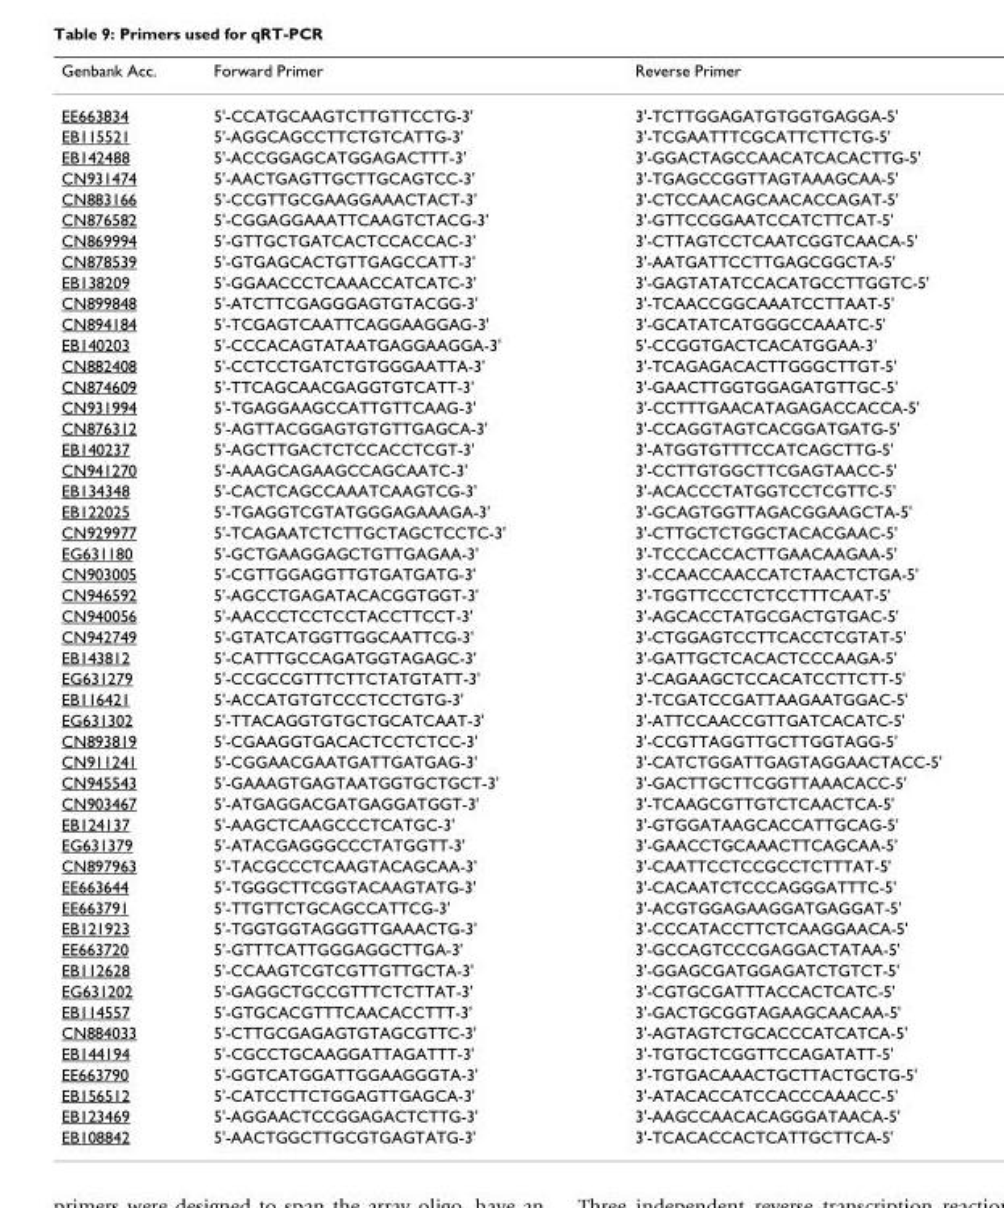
<table><thead><tr><td>Genbank Acc.</td><td>Forward Primer</td><td>Reverse Primer</td></tr></thead><tbody><tr><td>EE663834</td><td>5&#x27;-CCATGCAAGTCTTGTTCCTG-3&#x27;</td><td>3&#x27;-TCTTGGAGATGTGGTGAGGA-5&#x27;</td></tr><tr><td>EB115521</td><td>5&#x27;-AGGCAGCCTTCTGTCATTG-3&#x27;</td><td>3&#x27;-TCGAATTTCGCATTCTTCTG-5&#x27;</td></tr><tr><td>EB142488</td><td>5&#x27;-ACCGGAGCATGGAGACTTT-3&#x27;</td><td>3&#x27;-GGACTAGCCAACATCACACTTG-5&#x27;</td></tr><tr><td>CN931474</td><td>5&#x27;-AACTGAGTTGCTTGCAGTCC-3&#x27;</td><td>3&#x27;-TGAGCCGGTTAGTAAAGCAA-5&#x27;</td></tr><tr><td>CN883166</td><td>5&#x27;-CCGTTGCGAAGGAAACTACT-3&#x27;</td><td>3&#x27;-CTCCAACAGCAACACCAGAT-5&#x27;</td></tr><tr><td>CN876582</td><td>5&#x27;-CGGAGGAAATTCAAGTCTACG-3&#x27;</td><td>3&#x27;-GTTCCGGAATCCATCTTCAT-5&#x27;</td></tr><tr><td>CN869994</td><td>5&#x27;-GTTGCTGATCACTCCACCAC-3&#x27;</td><td>3&#x27;-CTTAGTCCTCAATCGGTCAACA-5&#x27;</td></tr><tr><td>CN878539</td><td>5&#x27;-GTGAGCACTGTTGAGCCATT-3&#x27;</td><td>3&#x27;-AATGATTCCTTGAGCGGCTA-5&#x27;</td></tr><tr><td>EB138209</td><td>5&#x27;-GGAACCCTCAAACCATCATC-3&#x27;</td><td>3&#x27;-GAGTATATCCACATGCCTTGGTC-5&#x27;</td></tr><tr><td>CN899848</td><td>5&#x27;-ATCTTCGAGGGAGTGTACGG-3&#x27;</td><td>3&#x27;-TCAACCGGCAAATCCTTAAT-5&#x27;</td></tr><tr><td>CN894184</td><td>5&#x27;-TCGAGTCAATTCAGGAAGGAG-3&#x27;</td><td>3&#x27;-GCATATCATGGGCCAAATC-5&#x27;</td></tr><tr><td>EB140203</td><td>5&#x27;-CCCACAGTATAATGAGGAAGGA-3&#x27;</td><td>5&#x27;-CCGGTGACTCACATGGAA-3&#x27;</td></tr><tr><td>CN882408</td><td>5&#x27;-CCTCCTGATCTGTGGGAATTA-3&#x27;</td><td>3&#x27;-TCAGAGACACTTGGGCTTGT-5&#x27;</td></tr><tr><td>CN874609</td><td>5&#x27;-TTCAGCAACGAGGTGTCATT-3&#x27;</td><td>3&#x27;-GAACTTGGTGGAGATGTTGC-5&#x27;</td></tr><tr><td>CN931994</td><td>5&#x27;-TGAGGAAGCCATTGTTCAAG-3&#x27;</td><td>3&#x27;-CCTTTGAACATAGAGACCACCA-5&#x27;</td></tr><tr><td>CN876312</td><td>5&#x27;-AGTTACGGAGTGTGTTGAGCA-3&#x27;</td><td>3&#x27;-CCAGGTAGTCACGGATGATG-5&#x27;</td></tr><tr><td>EB140237</td><td>5&#x27;-AGCTTGACTCTCCACCTCGT-3&#x27;</td><td>3&#x27;-ATGGTGTTTCCATCAGCTTG-5&#x27;</td></tr><tr><td>CN941270</td><td>5&#x27;-AAAGCAGAAGCCAGCAATC-3&#x27;</td><td>3&#x27;-CCTTGTGGCTTCGAGTAACC-5&#x27;</td></tr><tr><td>EB134348</td><td>5&#x27;-CACTCAGCCAAATCAAGTCG-3&#x27;</td><td>3&#x27;-ACACCCTATGGTCCTCGTTC-5&#x27;</td></tr><tr><td>EB122025</td><td>5&#x27;-TGAGGTCGTATGGGAGAAAGA-3&#x27;</td><td>3&#x27;-GCAGTGGTTAGACGGAAGCTA-5&#x27;</td></tr><tr><td>CN929977</td><td>5&#x27;-TCAGAATCTCTTGCTAGCTCCTC-3&#x27;</td><td>3&#x27;-CTTGCTCTGGCTACACGAAC-5&#x27;</td></tr><tr><td>EG631180</td><td>5&#x27;-GCTGAAGGAGCTGTTGAGAA-3&#x27;</td><td>3&#x27;-TCCCACCACTTGAACAAGAA-5&#x27;</td></tr><tr><td>CN903005</td><td>5&#x27;-CGTTGGAGGTTGTGATGATG-3&#x27;</td><td>3&#x27;-CCAACCAACCATCTAACTCTGA-5&#x27;</td></tr><tr><td>CN946592</td><td>5&#x27;-AGCCTGAGATACACGGTGGT-3&#x27;</td><td>3&#x27;-TGGTTCCCTCTCCTTTCAAT-5&#x27;</td></tr><tr><td>CN940056</td><td>5&#x27;-AACCCTCCTCCTACCTTCCT-3&#x27;</td><td>3&#x27;-AGCACCTATGCGACTGTGAC-5&#x27;</td></tr><tr><td>CN942749</td><td>5&#x27;-GTATCATGGTTGGCAATTCG-3&#x27;</td><td>3&#x27;-CTGGAGTCCTTCACCTCGTAT-5&#x27;</td></tr><tr><td>EB143812</td><td>5&#x27;-CATTTGCCAGATGGTAGAGC-3&#x27;</td><td>3&#x27;-GATTGCTCACACTCCCAAGA-5&#x27;</td></tr><tr><td>EG631279</td><td>5&#x27;-CCGCCGTTTCTTCTATGTATT-3&#x27;</td><td>3&#x27;-CAGAAGCTCCACATCCTTCTT-5&#x27;</td></tr><tr><td>EB116421</td><td>5&#x27;-ACCATGTGTCCCTCCTGTG-3&#x27;</td><td>3&#x27;-TCGATCCGATTAAGAATGGAC-5&#x27;</td></tr><tr><td>EG631302</td><td>5&#x27;-TTACAGGTGTGCTGCATCAAT-3&#x27;</td><td>3&#x27;-ATTCCAACCGTTGATCACATC-5&#x27;</td></tr><tr><td>CN893819</td><td>5&#x27;-CGAAGGTGACACTCCTCTCC-3&#x27;</td><td>3&#x27;-CCGTTAGGTTGCTTGGTAGG-5&#x27;</td></tr><tr><td>CN911241</td><td>5&#x27;-CGGAACGAATGATTGATGAG-3&#x27;</td><td>3&#x27;-CATCTGGATTGAGTAGGAACTACC-5&#x27;</td></tr><tr><td>CN945543</td><td>5&#x27;-GAAAGTGAGTAATGGTGCTGCT-3&#x27;</td><td>3&#x27;-GACTTGCTTCGGTTAAACACC-5&#x27;</td></tr><tr><td>CN903467</td><td>5&#x27;-ATGAGGACGATGAGGATGGT-3&#x27;</td><td>3&#x27;-TCAAGCGTTGTCTCAACTCA-5&#x27;</td></tr><tr><td>EB124137</td><td>5&#x27;-AAGCTCAAGCCCTCATGC-3&#x27;</td><td>3&#x27;-GTGGATAAGCACCATTGCAG-5&#x27;</td></tr><tr><td>EG631379</td><td>5&#x27;-ATACGAGGGCCCTATGGTT-3&#x27;</td><td>3&#x27;-GAACCTGCAAACTTCAGCAA-5&#x27;</td></tr><tr><td>CN897963</td><td>5&#x27;-TACGCCCTCAAGTACAGCAA-3&#x27;</td><td>3&#x27;-CAATTCCTCCGCCTCTTTAT-5&#x27;</td></tr><tr><td>EE663644</td><td>5&#x27;-TGGGCTTCGGTACAAGTATG-3&#x27;</td><td>3&#x27;-CACAATCTCCCAGGGATTTC-5&#x27;</td></tr><tr><td>EE663791</td><td>5&#x27;-TTGTTCTGCAGCCATTCG-3&#x27;</td><td>3&#x27;-ACGTGGAGAAGGATGAGGAT-5&#x27;</td></tr><tr><td>EB121923</td><td>5&#x27;-TGGTGGTAGGGTTGAAACTG-3&#x27;</td><td>3&#x27;-CCCATACCTTCTCAAGGAACA-5&#x27;</td></tr><tr><td>EE663720</td><td>5&#x27;-GTTTCATTGGGAGGCTTGA-3&#x27;</td><td>3&#x27;-GCCAGTCCCGAGGACTATAA-5&#x27;</td></tr><tr><td>EB112628</td><td>5&#x27;-CCAAGTCGTCGTTGTTGCTA-3&#x27;</td><td>3&#x27;-GGAGCGATGGAGATCTGTCT-5&#x27;</td></tr><tr><td>EG631202</td><td>5&#x27;-GAGGCTGCCGTTTCTCTTAT-3&#x27;</td><td>3&#x27;-CGTGCGATTTACCACTCATC-5&#x27;</td></tr><tr><td>EB114557</td><td>5&#x27;-GTGCACGTTTCAACACCTTT-3&#x27;</td><td>3&#x27;-GACTGCGGTAGAAGCAACAA-5&#x27;</td></tr><tr><td>CN884033</td><td>5&#x27;-CTTGCGAGAGTGTAGCGTTC-3&#x27;</td><td>3&#x27;-AGTAGTCTGCACCCATCATCA-5&#x27;</td></tr><tr><td>EB144194</td><td>5&#x27;-CGCCTGCAAGGATTAGATTT-3&#x27;</td><td>3&#x27;-TGTGCTCGGTTCCAGATATT-5&#x27;</td></tr><tr><td>EE663790</td><td>5&#x27;-GGTCATGGATTGGAAGGGTA-3&#x27;</td><td>3&#x27;-TGTGACAAACTGCTTACTGCTG-5&#x27;</td></tr><tr><td>EB156512</td><td>5&#x27;-CATCCTTCTGGAGTTGAGCA-3&#x27;</td><td>3&#x27;-ATACACCATCCACCCAAACC-5&#x27;</td></tr><tr><td>EB123469</td><td>5&#x27;-AGGAACTCCGGAGACTCTTG-3&#x27;</td><td>3&#x27;-AAGCCAACACAGGGATAACA-5&#x27;</td></tr><tr><td>EB108842</td><td>5&#x27;-AACTGGCTTGCGTGAGTATG-3&#x27;</td><td>3&#x27;-TCACACCACTCATTGCTTCA-5&#x27;</td></tr></tbody></table>